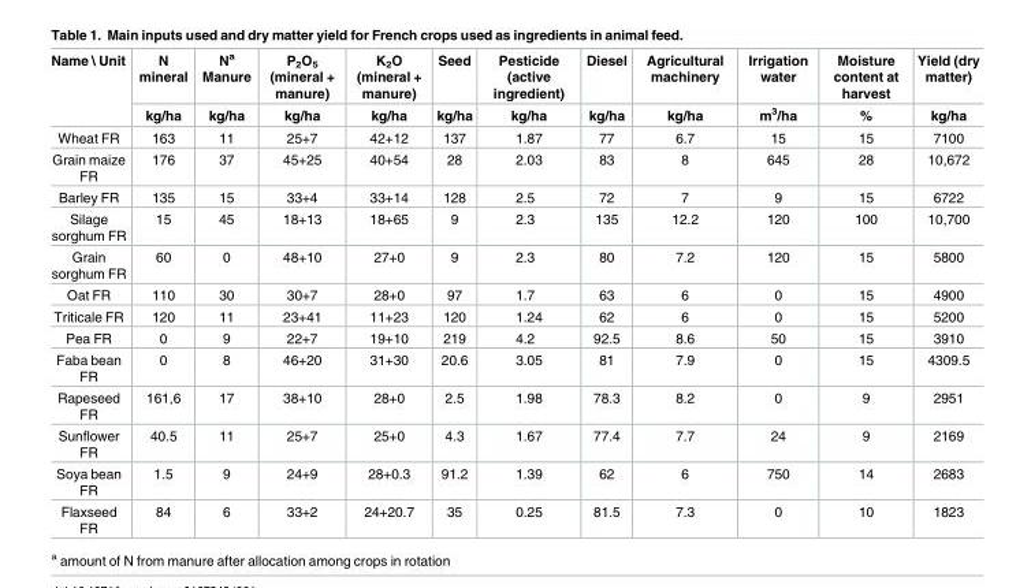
<table><thead><tr><td rowspan="2">Name \ Unit</td><td rowspan="2">N mineral kg/ha</td><td rowspan="2">N<sup>a</sup> Manure kg/ha</td><td rowspan="2">P<sub>2</sub>O<sub>5</sub> (mineral + manure) kg/ha</td><td rowspan="2">K<sub>2</sub>O (mineral + manure) kg/ha</td><td rowspan="2">Seed kg/ha</td><td rowspan="2">Pesticide (active ingredient) kg/ha</td><td rowspan="2">Diesel kg/ha</td><td rowspan="2">Agricultural machinery kg/ha</td><td rowspan="2">Irrigation water m<sup>3</sup>/ha</td><td rowspan="2">Moisture content at harvest %</td><td rowspan="2">Yield (dry matter) kg/ha</td></tr><tr></tr></thead><tbody><tr><td>Wheat FR</td><td>163</td><td>11</td><td>25+7</td><td>42+12</td><td>137</td><td>1.87</td><td>77</td><td>6.7</td><td>15</td><td>15</td><td>7100</td></tr><tr><td>Grain maize FR</td><td>176</td><td>37</td><td>45+25</td><td>40+54</td><td>28</td><td>2.03</td><td>83</td><td>8</td><td>645</td><td>28</td><td>10,672</td></tr><tr><td>Barley FR</td><td>135</td><td>15</td><td>33+4</td><td>33+14</td><td>128</td><td>2.5</td><td>72</td><td>7</td><td>9</td><td>15</td><td>6722</td></tr><tr><td>Silage sorghum FR</td><td>15</td><td>45</td><td>18+13</td><td>18+65</td><td>9</td><td>2.3</td><td>135</td><td>12.2</td><td>120</td><td>100</td><td>10,700</td></tr><tr><td>Grain sorghum FR</td><td>60</td><td>0</td><td>48+10</td><td>27+0</td><td>9</td><td>2.3</td><td>80</td><td>7.2</td><td>120</td><td>15</td><td>5800</td></tr><tr><td>Oat FR</td><td>110</td><td>30</td><td>30+7</td><td>28+0</td><td>97</td><td>1.7</td><td>63</td><td>6</td><td>0</td><td>15</td><td>4900</td></tr><tr><td>Triticale FR</td><td>120</td><td>11</td><td>23+41</td><td>11+23</td><td>120</td><td>1.24</td><td>62</td><td>6</td><td>0</td><td>15</td><td>5200</td></tr><tr><td>Pea FR</td><td>0</td><td>9</td><td>22+7</td><td>19+10</td><td>219</td><td>4.2</td><td>92.5</td><td>8.6</td><td>50</td><td>15</td><td>3910</td></tr><tr><td>Faba bean FR</td><td>0</td><td>8</td><td>46+20</td><td>31+30</td><td>20.6</td><td>3.05</td><td>81</td><td>7.9</td><td>0</td><td>15</td><td>4309.5</td></tr><tr><td>Rapeseed FR</td><td>161,6</td><td>17</td><td>38+10</td><td>28+0</td><td>2.5</td><td>1.98</td><td>78.3</td><td>8.2</td><td>0</td><td>9</td><td>2951</td></tr><tr><td>Sunflower FR</td><td>40.5</td><td>11</td><td>25+7</td><td>25+0</td><td>4.3</td><td>1.67</td><td>77.4</td><td>7.7</td><td>24</td><td>9</td><td>2169</td></tr><tr><td>Soya bean FR</td><td>1.5</td><td>9</td><td>24+9</td><td>28+0.3</td><td>91.2</td><td>1.39</td><td>62</td><td>6</td><td>750</td><td>14</td><td>2683</td></tr><tr><td>Flaxseed FR</td><td>84</td><td>6</td><td>33+2</td><td>24+20.7</td><td>35</td><td>0.25</td><td>81.5</td><td>7.3</td><td>0</td><td>10</td><td>1823</td></tr></tbody></table>